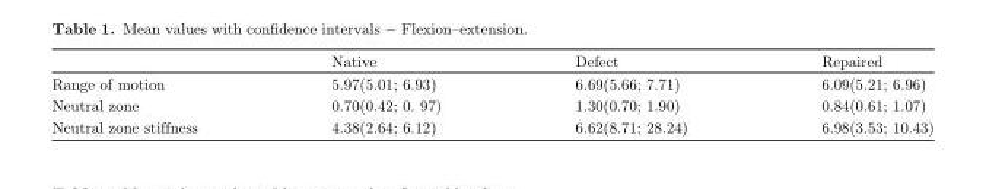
<table><thead><tr><td></td><td>Native</td><td>Defect</td><td>Repaired</td></tr></thead><tbody><tr><td>Range of motion</td><td>5.97(5.01; 6.93)</td><td>6.69(5.66; 7.71)</td><td>6.09(5.21; 6.96)</td></tr><tr><td>Neutral zone</td><td>0.70(0.42; 0. 97)</td><td>1.30(0.70; 1.90)</td><td>0.84(0.61; 1.07)</td></tr><tr><td>Neutral zone stiffness</td><td>4.38(2.64; 6.12)</td><td>6.62(8.71; 28.24)</td><td>6.98(3.53; 10.43)</td></tr></tbody></table>